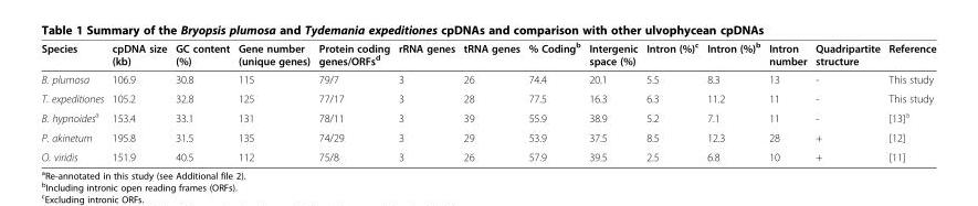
<table><thead><tr><td>Species</td><td>cpDNA size (kb)</td><td>GC content (%)</td><td>Gene number (unique genes)</td><td>Protein coding genes/ORFs<sup>d</sup></td><td>rRNA genes</td><td>tRNA genes</td><td>% Coding<sup>b</sup></td><td>Intergenic space (%)</td><td>Intron (%)<sup>c</sup></td><td>Intron (%)<sup>b</sup></td><td>Intron number</td><td>Quadripartite structure</td><td>Reference</td></tr></thead><tbody><tr><td>B. plumosa</td><td>106.9</td><td>30.8</td><td>115</td><td>79/7</td><td>3</td><td>26</td><td>74.4</td><td>20.1</td><td>5.5</td><td>8.3</td><td>13</td><td>-</td><td>This study</td></tr><tr><td>T. expeditiones</td><td>105.2</td><td>32.8</td><td>125</td><td>77/17</td><td>3</td><td>28</td><td>77.5</td><td>16.3</td><td>6.3</td><td>11.2</td><td>11</td><td>-</td><td>This study</td></tr><tr><td>B. hypnoides<sup>a</sup></td><td>153.4</td><td>33.1</td><td>131</td><td>78/11</td><td>3</td><td>39</td><td>55.9</td><td>38.9</td><td>5.2</td><td>7.1</td><td>11</td><td>-</td><td>[13]<sup>a</sup></td></tr><tr><td>P. akinetum</td><td>195.8</td><td>31.5</td><td>135</td><td>74/29</td><td>3</td><td>29</td><td>53.9</td><td>37.5</td><td>8.5</td><td>12.3</td><td>28</td><td>+</td><td>[12]</td></tr><tr><td>O. viridis</td><td>151.9</td><td>40.5</td><td>112</td><td>75/8</td><td>3</td><td>26</td><td>57.9</td><td>39.5</td><td>2.5</td><td>6.8</td><td>10</td><td>+</td><td>[11]</td></tr></tbody></table>